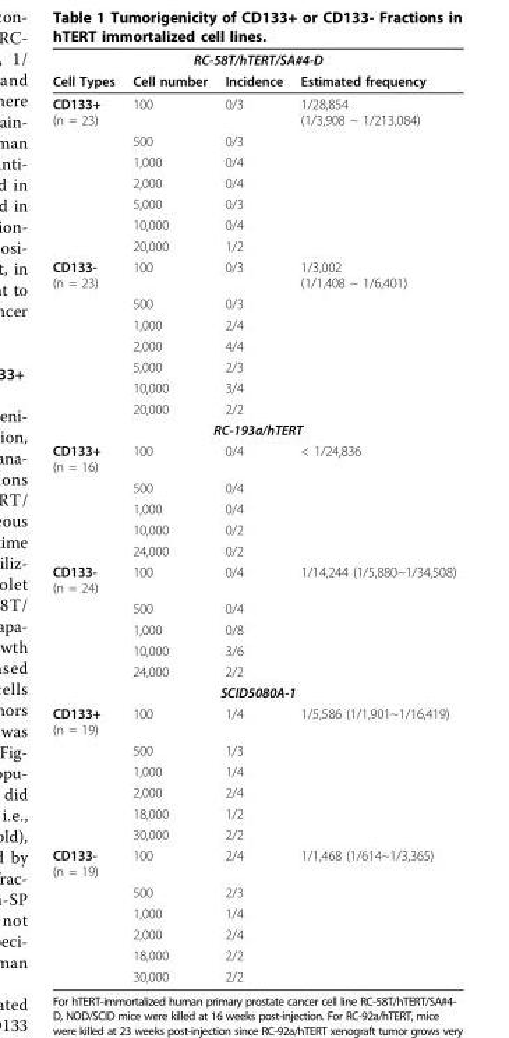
<table><thead><tr><td colspan="4">RC-58T/hTERT/SA#4-D</td></tr><tr><td>Cell Types</td><td>Cell number</td><td>Incidence</td><td>Estimated frequency</td></tr></thead><tbody><tr><td rowspan="7">CD133+ (n = 23)</td><td>100</td><td>0/3</td><td>1/28,854 (1/3,908 ~ 1/213,084)</td></tr><tr><td>500</td><td>0/3</td><td></td></tr><tr><td>1,000</td><td>0/4</td><td></td></tr><tr><td>2,000</td><td>0/4</td><td></td></tr><tr><td>5,000</td><td>0/3</td><td></td></tr><tr><td>10,000</td><td>0/4</td><td></td></tr><tr><td>20,000</td><td>1/2</td><td></td></tr><tr><td rowspan="7">CD133- (n = 23)</td><td>100</td><td>0/3</td><td>1/3,002 (1/1,408 ~ 1/6,401)</td></tr><tr><td>500</td><td>0/3</td><td></td></tr><tr><td>1,000</td><td>2/4</td><td></td></tr><tr><td>2,000</td><td>4/4</td><td></td></tr><tr><td>5,000</td><td>2/3</td><td></td></tr><tr><td>10,000</td><td>3/4</td><td></td></tr><tr><td>20,000</td><td>2/2</td><td></td></tr><tr><td colspan="4">RC-193a/hTERT</td></tr><tr><td rowspan="5">CD133+ (n = 16)</td><td>100</td><td>0/4</td><td>&lt; 1/24,836</td></tr><tr><td>500</td><td>0/4</td><td></td></tr><tr><td>1,000</td><td>0/4</td><td></td></tr><tr><td>10,000</td><td>0/2</td><td></td></tr><tr><td>24,000</td><td>0/2</td><td></td></tr><tr><td rowspan="5">CD133- (n = 24)</td><td>100</td><td>0/4</td><td>1/14,244 (1/5,880~1/34,508)</td></tr><tr><td>500</td><td>0/4</td><td></td></tr><tr><td>1,000</td><td>0/8</td><td></td></tr><tr><td>10,000</td><td>3/6</td><td></td></tr><tr><td>24,000</td><td>2/2</td><td></td></tr><tr><td colspan="4">SCID5080A-1</td></tr><tr><td rowspan="6">CD133+ (n = 19)</td><td>100</td><td>1/4</td><td>1/5,586 (1/1,901~1/16,419)</td></tr><tr><td>500</td><td>1/3</td><td></td></tr><tr><td>1,000</td><td>1/4</td><td></td></tr><tr><td>2,000</td><td>2/4</td><td></td></tr><tr><td>18,000</td><td>1/2</td><td></td></tr><tr><td>30,000</td><td>2/2</td><td></td></tr><tr><td rowspan="6">CD133- (n = 19)</td><td>100</td><td>2/4</td><td>1/1,468 (1/614~1/3,365)</td></tr><tr><td>500</td><td>2/3</td><td></td></tr><tr><td>1,000</td><td>1/4</td><td></td></tr><tr><td>2,000</td><td>2/4</td><td></td></tr><tr><td>18,000</td><td>2/2</td><td></td></tr><tr><td>30,000</td><td>2/2</td><td></td></tr></tbody></table>